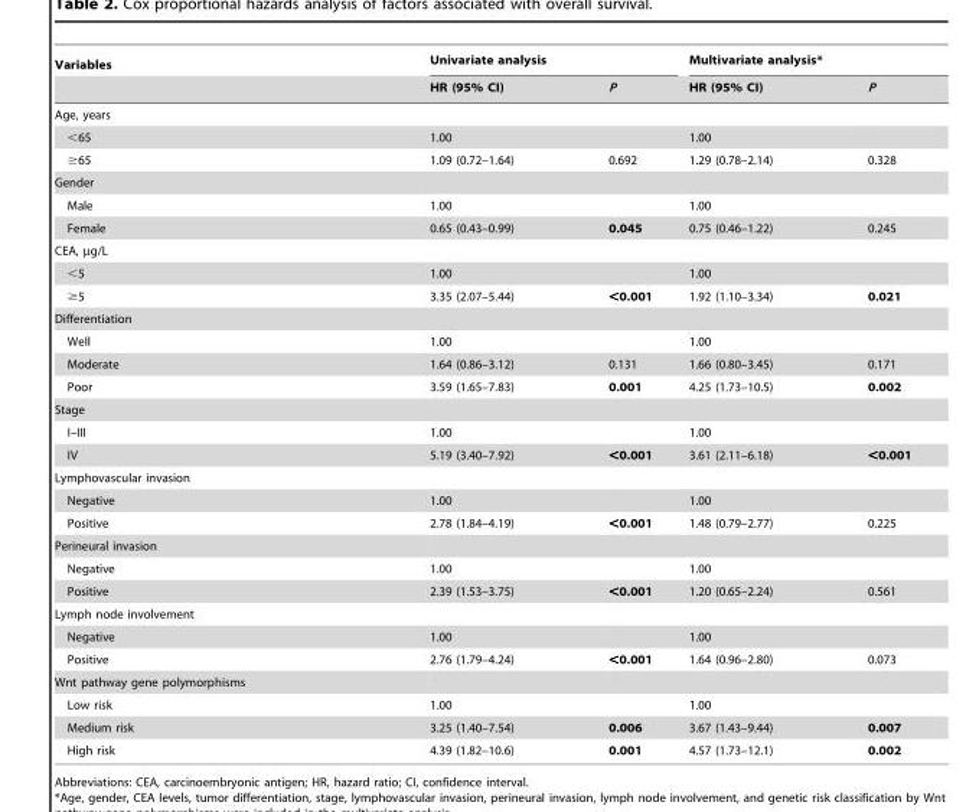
<table><thead><tr><td rowspan="2">Variables</td><td colspan="2">Univariate analysis</td><td colspan="2">Multivariate analysis*</td></tr><tr><td>HR (95% CI)</td><td>P</td><td>HR (95% CI)</td><td>P</td></tr></thead><tbody><tr><td colspan="5">Age, years</td></tr><tr><td>&lt;65</td><td>1.00</td><td></td><td>1.00</td><td></td></tr><tr><td>≥65</td><td>1.09 (0.72–1.64)</td><td>0.692</td><td>1.29 (0.78–2.14)</td><td>0.328</td></tr><tr><td colspan="5">Gender</td></tr><tr><td>Male</td><td>1.00</td><td></td><td>1.00</td><td></td></tr><tr><td>Female</td><td>0.65 (0.43–0.99)</td><td>0.045</td><td>0.75 (0.46–1.22)</td><td>0.245</td></tr><tr><td colspan="5">CEA, µg/L</td></tr><tr><td>&lt;5</td><td>1.00</td><td></td><td>1.00</td><td></td></tr><tr><td>≥5</td><td>3.35 (2.07–5.44)</td><td>&lt;0.001</td><td>1.92 (1.10–3.34)</td><td>0.021</td></tr><tr><td colspan="5">Differentiation</td></tr><tr><td>Well</td><td>1.00</td><td></td><td>1.00</td><td></td></tr><tr><td>Moderate</td><td>1.64 (0.86–3.12)</td><td>0.131</td><td>1.66 (0.80–3.45)</td><td>0.171</td></tr><tr><td>Poor</td><td>3.59 (1.65–7.83)</td><td>0.001</td><td>4.25 (1.73–10.5)</td><td>0.002</td></tr><tr><td colspan="5">Stage</td></tr><tr><td>I–III</td><td>1.00</td><td></td><td>1.00</td><td></td></tr><tr><td>IV</td><td>5.19 (3.40–7.92)</td><td>&lt;0.001</td><td>3.61 (2.11–6.18)</td><td>&lt;0.001</td></tr><tr><td colspan="5">Lymphovascular invasion</td></tr><tr><td>Negative</td><td>1.00</td><td></td><td>1.00</td><td></td></tr><tr><td>Positive</td><td>2.78 (1.84–4.19)</td><td>&lt;0.001</td><td>1.48 (0.79–2.77)</td><td>0.225</td></tr><tr><td colspan="5">Perineural invasion</td></tr><tr><td>Negative</td><td>1.00</td><td></td><td>1.00</td><td></td></tr><tr><td>Positive</td><td>2.39 (1.53–3.75)</td><td>&lt;0.001</td><td>1.20 (0.65–2.24)</td><td>0.561</td></tr><tr><td colspan="5">Lymph node involvement</td></tr><tr><td>Negative</td><td>1.00</td><td></td><td>1.00</td><td></td></tr><tr><td>Positive</td><td>2.76 (1.79–4.24)</td><td>&lt;0.001</td><td>1.64 (0.96–2.80)</td><td>0.073</td></tr><tr><td colspan="5">Wnt pathway gene polymorphisms</td></tr><tr><td>Low risk</td><td>1.00</td><td></td><td>1.00</td><td></td></tr><tr><td>Medium risk</td><td>3.25 (1.40–7.54)</td><td>0.006</td><td>3.67 (1.43–9.44)</td><td>0.007</td></tr><tr><td>High risk</td><td>4.39 (1.82–10.6)</td><td>0.001</td><td>4.57 (1.73–12.1)</td><td>0.002</td></tr></tbody></table>